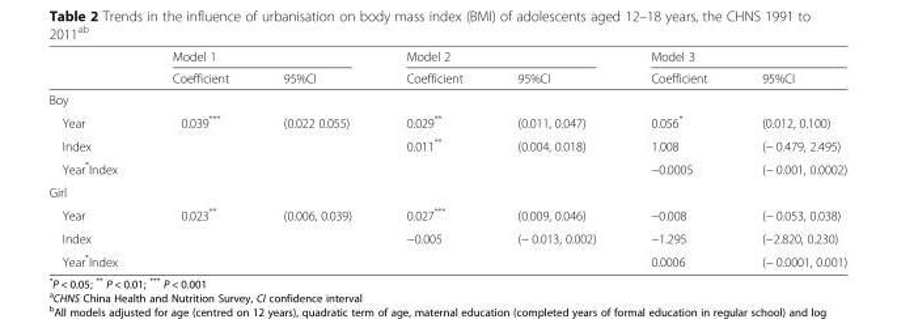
<table><thead><tr><td rowspan="2"></td><td colspan="2">Model 1</td><td colspan="2">Model 2</td><td colspan="2">Model 3</td></tr><tr><td>Coefficient</td><td>95%CI</td><td>Coefficient</td><td>95%CI</td><td>Coefficient</td><td>95%CI</td></tr></thead><tbody><tr><td colspan="7">Boy</td></tr><tr><td>Year</td><td>0.039***</td><td>(0.022 0.055)</td><td>0.029**</td><td>(0.011, 0.047)</td><td>0.056*</td><td>(0.012, 0.100)</td></tr><tr><td>Index</td><td></td><td></td><td>0.011**</td><td>(0.004, 0.018)</td><td>1.008</td><td>(− 0.479, 2.495)</td></tr><tr><td>Year*Index</td><td></td><td></td><td></td><td></td><td>−0.0005</td><td>(− 0.001, 0.0002)</td></tr><tr><td colspan="7">Girl</td></tr><tr><td>Year</td><td>0.023**</td><td>(0.006, 0.039)</td><td>0.027***</td><td>(0.009, 0.046)</td><td>−0.008</td><td>(− 0.053, 0.038)</td></tr><tr><td>Index</td><td></td><td></td><td>−0.005</td><td>(− 0.013, 0.002)</td><td>−1.295</td><td>(−2.820, 0.230)</td></tr><tr><td>Year*Index</td><td></td><td></td><td></td><td></td><td>0.0006</td><td>(− 0.0001, 0.001)</td></tr></tbody></table>